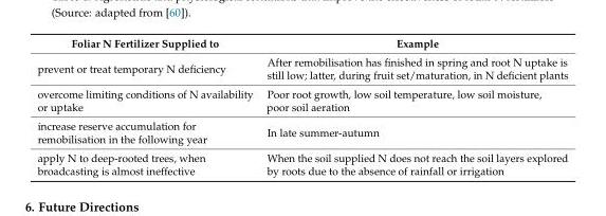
<table><thead><tr><td>Foliar N Fertilizer Supplied to</td><td>Example</td></tr></thead><tbody><tr><td>prevent or treat temporary N deficiency</td><td>After remobilisation has finished in spring and root N uptake is still low; latter, during fruit set/maturation, in N deficient plants</td></tr><tr><td>overcome limiting conditions of N availability or uptake</td><td>Poor root growth, low soil temperature, low soil moisture, poor soil aeration</td></tr><tr><td>increase reserve accumulation for remobilisation in the following year</td><td>In late summer-autumn</td></tr><tr><td>apply N to deep-rooted trees, when broadcasting is almost ineffective</td><td>When the soil supplied N does not reach the soil layers explored by roots due to the absence of rainfall or irrigation</td></tr></tbody></table>